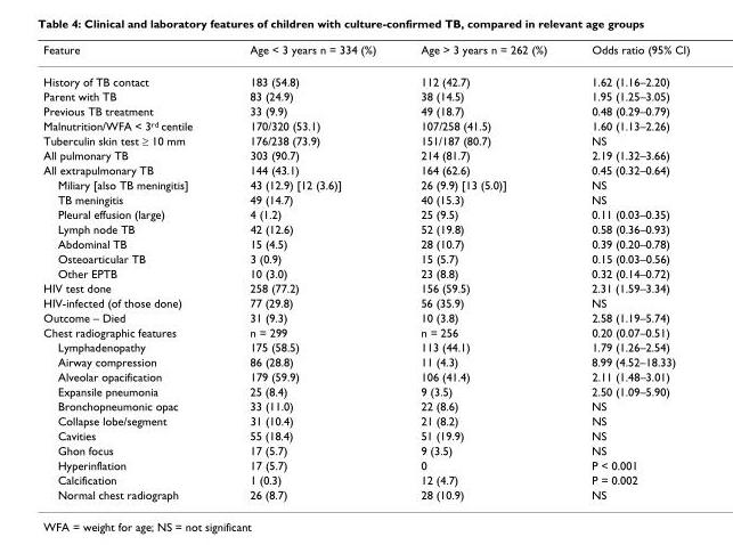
<table><thead><tr><td>Feature</td><td>Age &lt; 3 years n = 334 (%)</td><td>Age &gt; 3 years n = 262 (%)</td><td>Odds ratio (95% CI)</td></tr></thead><tbody><tr><td>History of TB contact</td><td>183 (54.8)</td><td>112 (42.7)</td><td>1.62 (1.16–2.20)</td></tr><tr><td>Parent with TB</td><td>83 (24.9)</td><td>38 (14.5)</td><td>1.95 (1.25–3.05)</td></tr><tr><td>Previous TB treatment</td><td>33 (9.9)</td><td>49 (18.7)</td><td>0.48 (0.29–0.79)</td></tr><tr><td>Malnutrition/WFA &lt; 3<sup>rd</sup> centile</td><td>170/320 (53.1)</td><td>107/258 (41.5)</td><td>1.60 (1.13–2.26)</td></tr><tr><td>Tuberculin skin test ≥ 10 mm</td><td>176/238 (73.9)</td><td>151/187 (80.7)</td><td>NS</td></tr><tr><td>All pulmonary TB</td><td>303 (90.7)</td><td>214 (81.7)</td><td>2.19 (1.32–3.66)</td></tr><tr><td>All extrapulmonary TB</td><td>144 (43.1)</td><td>164 (62.6)</td><td>0.45 (0.32–0.64)</td></tr><tr><td>Miliary [also TB meningitis]</td><td>43 (12.9) [12 (3.6)]</td><td>26 (9.9) [13 (5.0)]</td><td>NS</td></tr><tr><td>TB meningitis</td><td>49 (14.7)</td><td>40 (15.3)</td><td>NS</td></tr><tr><td>Pleural effusion (large)</td><td>4 (1.2)</td><td>25 (9.5)</td><td>0.11 (0.03–0.35)</td></tr><tr><td>Lymph node TB</td><td>42 (12.6)</td><td>52 (19.8)</td><td>0.58 (0.36–0.93)</td></tr><tr><td>Abdominal TB</td><td>15 (4.5)</td><td>28 (10.7)</td><td>0.39 (0.20–0.78)</td></tr><tr><td>Osteoarticular TB</td><td>3 (0.9)</td><td>15 (5.7)</td><td>0.15 (0.03–0.56)</td></tr><tr><td>Other EPTB</td><td>10 (3.0)</td><td>23 (8.8)</td><td>0.32 (0.14–0.72)</td></tr><tr><td>HIV test done</td><td>258 (77.2)</td><td>156 (59.5)</td><td>2.31 (1.59–3.34)</td></tr><tr><td>HIV-infected (of those done)</td><td>77 (29.8)</td><td>56 (35.9)</td><td>NS</td></tr><tr><td>Outcome – Died</td><td>31 (9.3)</td><td>10 (3.8)</td><td>2.58 (1.19–5.74)</td></tr><tr><td>Chest radiographic features</td><td>n = 299</td><td>n = 256</td><td>0.20 (0.07–0.51)</td></tr><tr><td>Lymphadenopathy</td><td>175 (58.5)</td><td>113 (44.1)</td><td>1.79 (1.26–2.54)</td></tr><tr><td>Airway compression</td><td>86 (28.8)</td><td>11 (4.3)</td><td>8.99 (4.52–18.33)</td></tr><tr><td>Alveolar opacification</td><td>179 (59.9)</td><td>106 (41.4)</td><td>2.11 (1.48–3.01)</td></tr><tr><td>Expansile pneumonia</td><td>25 (8.4)</td><td>9 (3.5)</td><td>2.50 (1.09–5.90)</td></tr><tr><td>Bronchopneumonic opac</td><td>33 (11.0)</td><td>22 (8.6)</td><td>NS</td></tr><tr><td>Collapse lobe/segment</td><td>31 (10.4)</td><td>21 (8.2)</td><td>NS</td></tr><tr><td>Cavities</td><td>55 (18.4)</td><td>51 (19.9)</td><td>NS</td></tr><tr><td>Ghon focus</td><td>17 (5.7)</td><td>9 (3.5)</td><td>NS</td></tr><tr><td>Hyperinflation</td><td>17 (5.7)</td><td>0</td><td>P &lt; 0.001</td></tr><tr><td>Calcification</td><td>1 (0.3)</td><td>12 (4.7)</td><td>P = 0.002</td></tr><tr><td>Normal chest radiograph</td><td>26 (8.7)</td><td>28 (10.9)</td><td>NS</td></tr></tbody></table>